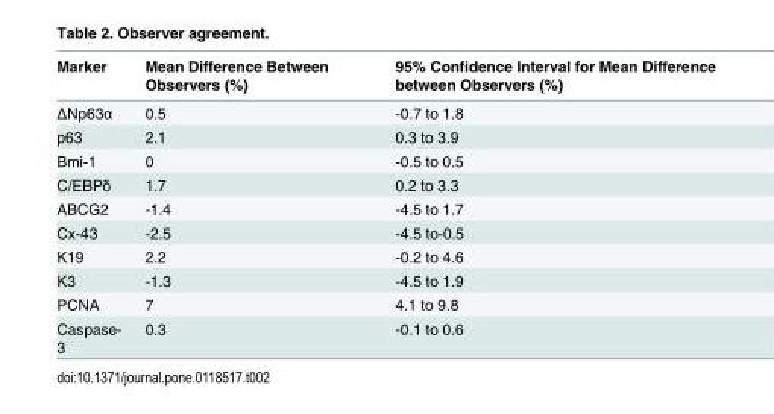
<table><thead><tr><td>Marker</td><td>Mean Difference Between Observers (%)</td><td>95% Confidence Interval for Mean Difference between Observers (%)</td></tr></thead><tbody><tr><td>ΔNp63α</td><td>0.5</td><td>-0.7 to 1.8</td></tr><tr><td>p63</td><td>2.1</td><td>0.3 to 3.9</td></tr><tr><td>Bmi-1</td><td>0</td><td>-0.5 to 0.5</td></tr><tr><td>C/EBPδ</td><td>1.7</td><td>0.2 to 3.3</td></tr><tr><td>ABCG2</td><td>-1.4</td><td>-4.5 to 1.7</td></tr><tr><td>Cx-43</td><td>-2.5</td><td>-4.5 to-0.5</td></tr><tr><td>K19</td><td>2.2</td><td>-0.2 to 4.6</td></tr><tr><td>K3</td><td>-1.3</td><td>-4.5 to 1.9</td></tr><tr><td>PCNA</td><td>7</td><td>4.1 to 9.8</td></tr><tr><td>Caspase- 3</td><td>0.3</td><td>-0.1 to 0.6</td></tr></tbody></table>